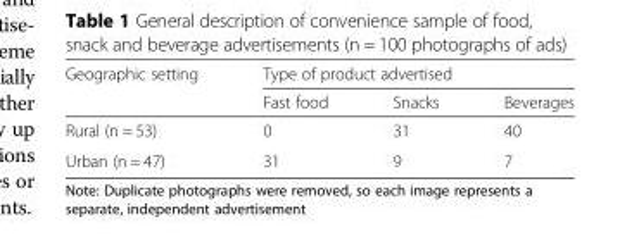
<table><thead><tr><td rowspan="2">Geographic setting</td><td colspan="3">Type of product advertised</td></tr><tr><td>Fast food</td><td>Snacks</td><td>Beverages</td></tr></thead><tbody><tr><td>Rural (n = 53)</td><td>0</td><td>31</td><td>40</td></tr><tr><td>Urban (n = 47)</td><td>31</td><td>9</td><td>7</td></tr></tbody></table>